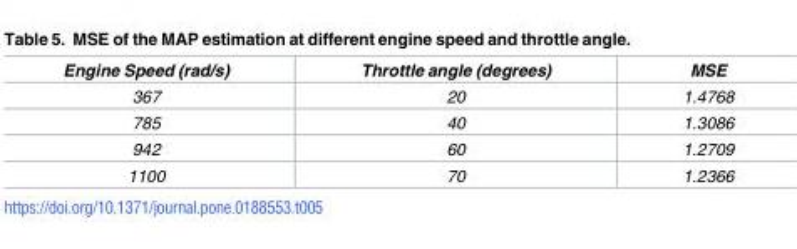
<table><thead><tr><td>Engine Speed (rad/s)</td><td>Throttle angle (degrees)</td><td>MSE</td></tr></thead><tbody><tr><td>367</td><td>20</td><td>1.4768</td></tr><tr><td>785</td><td>40</td><td>1.3086</td></tr><tr><td>942</td><td>60</td><td>1.2709</td></tr><tr><td>1100</td><td>70</td><td>1.2366</td></tr></tbody></table>